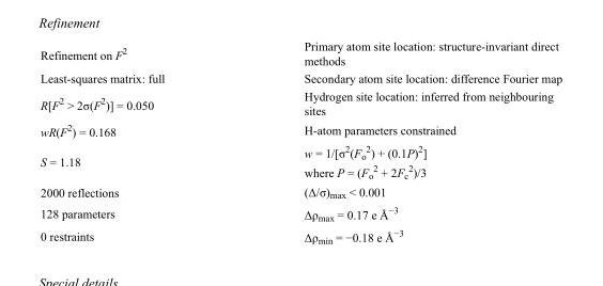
<table><tbody><tr><td>Refinement on F<sup>2</sup></td><td>Primary atom site location: structure-invariant direct methods</td></tr><tr><td>Least-squares matrix: full</td><td>Secondary atom site location: difference Fourier map</td></tr><tr><td>R[F<sup>2</sup> &gt; 2σ(F<sup>2</sup>)] = 0.050</td><td>Hydrogen site location: inferred from neighbouring sites</td></tr><tr><td>wR(F<sup>2</sup>) = 0.168</td><td>H-atom parameters constrained</td></tr><tr><td>S = 1.18</td><td>w = 1/[σ<sup>2</sup>(F<sub>o</sub> <sup>2</sup>) + (0.1P)<sup>2</sup>] where P = (F<sub>o</sub> <sup>2</sup> + 2F<sub>c</sub> <sup>2</sup>)/3</td></tr><tr><td>2000 reflections</td><td>(Δ/σ)<sub>max</sub> &lt; 0.001</td></tr><tr><td>128 parameters</td><td>Δρ<sub>max</sub> = 0.17 e Å<sup>−3</sup></td></tr><tr><td>0 restraints</td><td>Δρ<sub>min</sub> = −0.18 e Å<sup>−3</sup></td></tr></tbody></table>